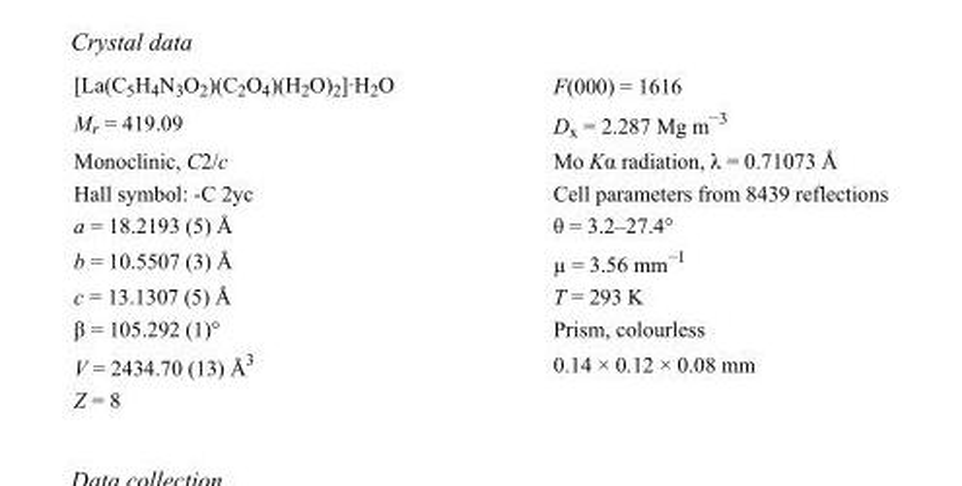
<table><tbody><tr><td>[La(C<sub>5</sub>H<sub>4</sub>N<sub>3</sub>O<sub>2</sub>)(C<sub>2</sub>O<sub>4</sub>)(H<sub>2</sub>O)<sub>2</sub>]·H<sub>2</sub>O</td><td>F(000) = 1616</td></tr><tr><td>M<sub>r</sub> = 419.09</td><td>D<sub>x</sub> = 2.287 Mg m<sup>−3</sup></td></tr><tr><td>Monoclinic, C2/c</td><td>Mo Kα radiation, λ = 0.71073 Å</td></tr><tr><td>Hall symbol: -C 2yc</td><td>Cell parameters from 8439 reflections</td></tr><tr><td>a = 18.2193 (5) Å</td><td>θ = 3.2–27.4°</td></tr><tr><td>b = 10.5507 (3) Å</td><td>µ = 3.56 mm<sup>−1</sup></td></tr><tr><td>c = 13.1307 (5) Å</td><td>T = 293 K</td></tr><tr><td>β = 105.292 (1)°</td><td>Prism, colourless</td></tr><tr><td>V = 2434.70 (13) Å<sup>3</sup></td><td>0.14 × 0.12 × 0.08 mm</td></tr><tr><td>Z = 8</td><td></td></tr></tbody></table>